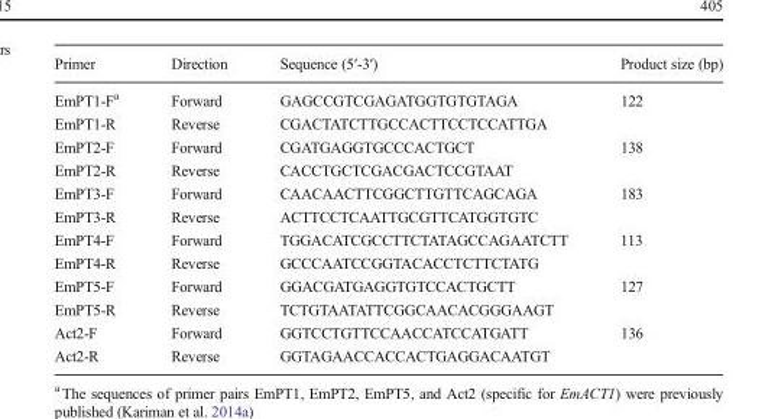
<table><thead><tr><td>Primer</td><td>Direction</td><td>Sequence (5′-3′)</td><td>Product size (bp)</td></tr></thead><tbody><tr><td>EmPT1-F<sup>a</sup></td><td>Forward</td><td>GAGCCGTCGAGATGGTGTGTAGA</td><td>122</td></tr><tr><td>EmPT1-R</td><td>Reverse</td><td>CGACTATCTTGCCACTTCCTCCATTGA</td><td></td></tr><tr><td>EmPT2-F</td><td>Forward</td><td>CGATGAGGTGCCCACTGCT</td><td>138</td></tr><tr><td>EmPT2-R</td><td>Reverse</td><td>CACCTGCTCGACGACTCCGTAAT</td><td></td></tr><tr><td>EmPT3-F</td><td>Forward</td><td>CAACAACTTCGGCTTGTTCAGCAGA</td><td>183</td></tr><tr><td>EmPT3-R</td><td>Reverse</td><td>ACTTCCTCAATTGCGTTCATGGTGTC</td><td></td></tr><tr><td>EmPT4-F</td><td>Forward</td><td>TGGACATCGCCTTCTATAGCCAGAATCTT</td><td>113</td></tr><tr><td>EmPT4-R</td><td>Reverse</td><td>GCCCAATCCGGTACACCTCTTCTATG</td><td></td></tr><tr><td>EmPT5-F</td><td>Forward</td><td>GGACGATGAGGTGTCCACTGCTT</td><td>127</td></tr><tr><td>EmPT5-R</td><td>Reverse</td><td>TCTGTAATATTCGGCAACACGGGAAGT</td><td></td></tr><tr><td>Act2-F</td><td>Forward</td><td>GGTCCTGTTCCAACCATCCATGATT</td><td>136</td></tr><tr><td>Act2-R</td><td>Reverse</td><td>GGTAGAACCACCACTGAGGACAATGT</td><td></td></tr></tbody></table>